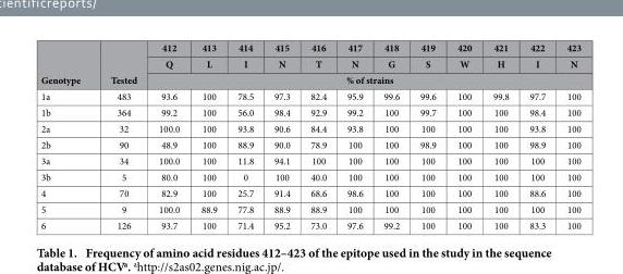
<table><thead><tr><td rowspan="3">Genotype</td><td rowspan="3">Tested</td><td rowspan="2">412 Q</td><td rowspan="2">413 L</td><td rowspan="2">414 I</td><td rowspan="2">415 N</td><td rowspan="2">416 T</td><td rowspan="2">417 N</td><td rowspan="2">418 G</td><td rowspan="2">419 S</td><td rowspan="2">420 W</td><td rowspan="2">421 H</td><td rowspan="2">422 I</td><td rowspan="2">423 N</td></tr><tr></tr><tr><td colspan="12">% of strains</td></tr></thead><tbody><tr><td>1a</td><td>483</td><td>93.6</td><td>100</td><td>78.5</td><td>97.3</td><td>82.4</td><td>95.9</td><td>99.6</td><td>99.6</td><td>100</td><td>99.8</td><td>97.7</td><td>100</td></tr><tr><td>1b</td><td>364</td><td>99.2</td><td>100</td><td>56.0</td><td>98.4</td><td>92.9</td><td>99.2</td><td>100</td><td>99.7</td><td>100</td><td>100</td><td>98.4</td><td>100</td></tr><tr><td>2a</td><td>32</td><td>100.0</td><td>100</td><td>93.8</td><td>90.6</td><td>84.4</td><td>93.8</td><td>100</td><td>100</td><td>100</td><td>100</td><td>93.8</td><td>100</td></tr><tr><td>2b</td><td>90</td><td>48.9</td><td>100</td><td>88.9</td><td>90.0</td><td>78.9</td><td>100</td><td>100</td><td>98.9</td><td>100</td><td>100</td><td>98.9</td><td>100</td></tr><tr><td>3a</td><td>34</td><td>100.0</td><td>100</td><td>11.8</td><td>94.1</td><td>100</td><td>100</td><td>100</td><td>100</td><td>100</td><td>100</td><td>100</td><td>100</td></tr><tr><td>3b</td><td>5</td><td>80.0</td><td>100</td><td>0</td><td>100</td><td>40.0</td><td>100</td><td>100</td><td>100</td><td>100</td><td>100</td><td>100</td><td>100</td></tr><tr><td>4</td><td>70</td><td>82.9</td><td>100</td><td>25.7</td><td>91.4</td><td>68.6</td><td>98.6</td><td>100</td><td>100</td><td>100</td><td>100</td><td>88.6</td><td>100</td></tr><tr><td>5</td><td>9</td><td>100.0</td><td>88.9</td><td>77.8</td><td>88.9</td><td>88.9</td><td>100</td><td>100</td><td>100</td><td>100</td><td>100</td><td>100</td><td>100</td></tr><tr><td>6</td><td>126</td><td>93.7</td><td>100</td><td>71.4</td><td>95.2</td><td>73.0</td><td>97.6</td><td>99.2</td><td>100</td><td>100</td><td>100</td><td>83.3</td><td>100</td></tr></tbody></table>